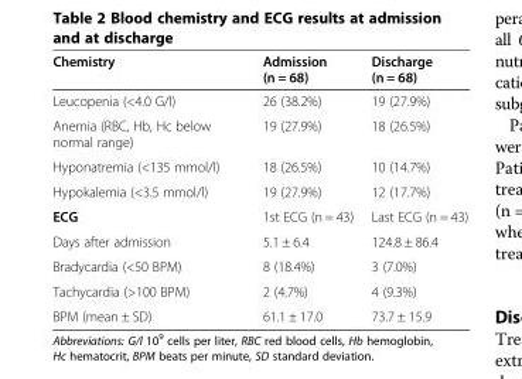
<table><thead><tr><td>Chemistry</td><td>Admission (n = 68)</td><td>Discharge (n = 68)</td></tr></thead><tbody><tr><td>Leucopenia (&lt;4.0 G/l)</td><td>26 (38.2%)</td><td>19 (27.9%)</td></tr><tr><td>Anemia (RBC, Hb, Hc below normal range)</td><td>19 (27.9%)</td><td>18 (26.5%)</td></tr><tr><td>Hyponatremia (&lt;135 mmol/l)</td><td>18 (26.5%)</td><td>10 (14.7%)</td></tr><tr><td>Hypokalemia (&lt;3.5 mmol/l)</td><td>19 (27.9%)</td><td>12 (17.7%)</td></tr><tr><td>ECG</td><td>1st ECG (n = 43)</td><td>Last ECG (n = 43)</td></tr><tr><td>Days after admission</td><td>5.1 ± 6.4</td><td>124.8 ± 86.4</td></tr><tr><td>Bradycardia (&lt;50 BPM)</td><td>8 (18.4%)</td><td>3 (7.0%)</td></tr><tr><td>Tachycardia (&gt;100 BPM)</td><td>2 (4.7%)</td><td>4 (9.3%)</td></tr><tr><td>BPM (mean ± SD)</td><td>61.1 ± 17.0</td><td>73.7 ± 15.9</td></tr></tbody></table>